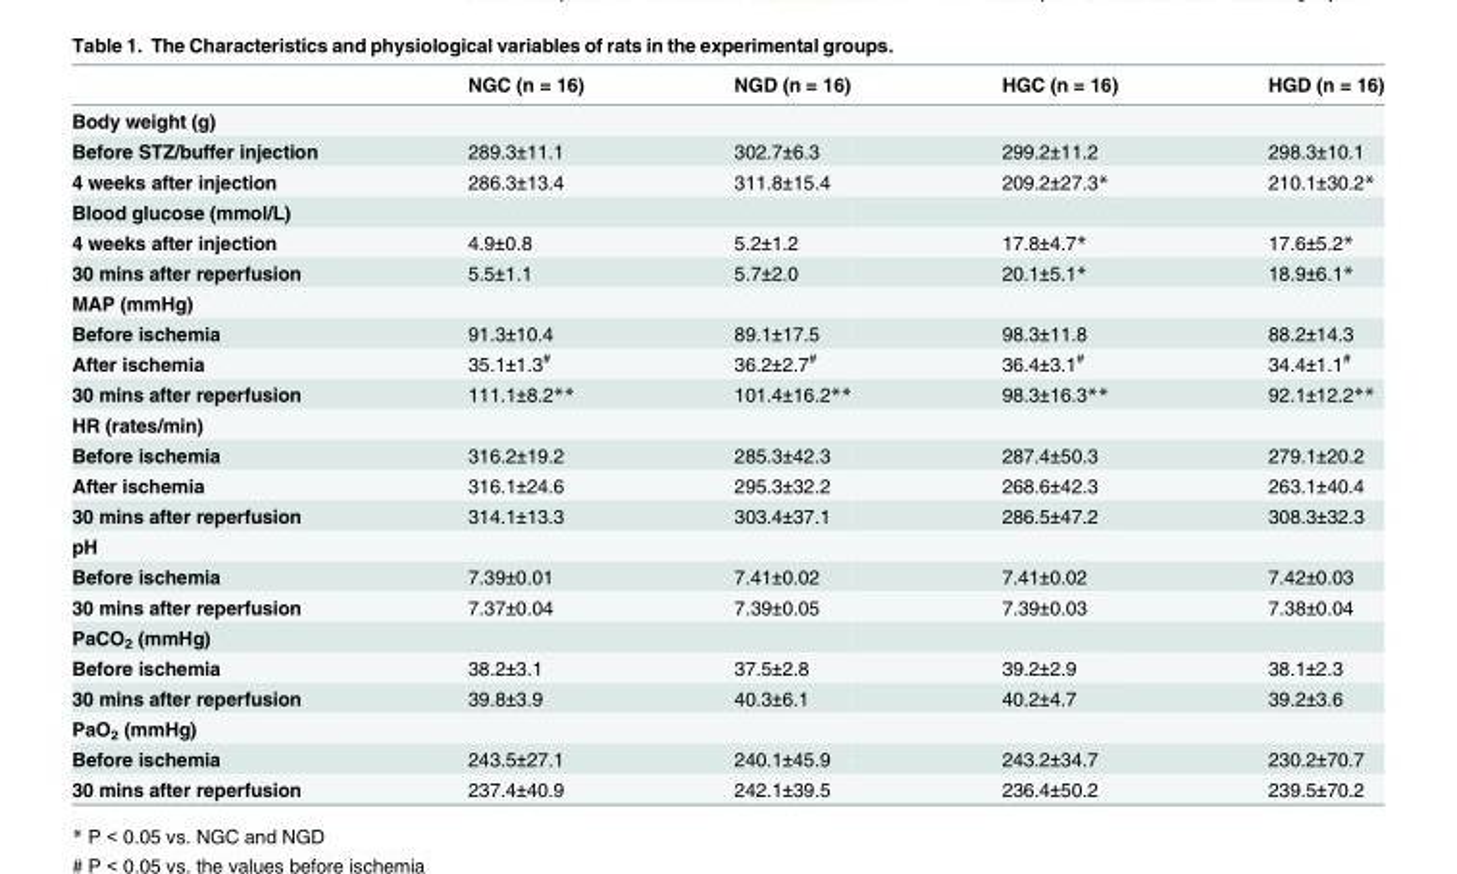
<table><thead><tr><td></td><td>NGC (n = 16)</td><td>NGD (n = 16)</td><td>HGC (n = 16)</td><td>HGD (n = 16)</td></tr></thead><tbody><tr><td colspan="5">Body weight (g)</td></tr><tr><td>Before STZ/buffer injection</td><td>289.3±11.1</td><td>302.7±6.3</td><td>299.2±11.2</td><td>298.3±10.1</td></tr><tr><td>4 weeks after injection</td><td>286.3±13.4</td><td>311.8±15.4</td><td>209.2±27.3*</td><td>210.1±30.2*</td></tr><tr><td colspan="5">Blood glucose (mmol/L)</td></tr><tr><td>4 weeks after injection</td><td>4.9±0.8</td><td>5.2±1.2</td><td>17.8±4.7*</td><td>17.6±5.2*</td></tr><tr><td>30 mins after reperfusion</td><td>5.5±1.1</td><td>5.7±2.0</td><td>20.1±5.1*</td><td>18.9±6.1*</td></tr><tr><td colspan="5">MAP (mmHg)</td></tr><tr><td>Before ischemia</td><td>91.3±10.4</td><td>89.1±17.5</td><td>98.3±11.8</td><td>88.2±14.3</td></tr><tr><td>After ischemia</td><td>35.1±1.3<sup>#</sup></td><td>36.2±2.7<sup>#</sup></td><td>36.4±3.1<sup>#</sup></td><td>34.4±1.1<sup>#</sup></td></tr><tr><td>30 mins after reperfusion</td><td>111.1±8.2**</td><td>101.4±16.2**</td><td>98.3±16.3**</td><td>92.1±12.2**</td></tr><tr><td colspan="5">HR (rates/min)</td></tr><tr><td>Before ischemia</td><td>316.2±19.2</td><td>285.3±42.3</td><td>287.4±50.3</td><td>279.1±20.2</td></tr><tr><td>After ischemia</td><td>316.1±24.6</td><td>295.3±32.2</td><td>268.6±42.3</td><td>263.1±40.4</td></tr><tr><td>30 mins after reperfusion</td><td>314.1±13.3</td><td>303.4±37.1</td><td>286.5±47.2</td><td>308.3±32.3</td></tr><tr><td colspan="5">pH</td></tr><tr><td>Before ischemia</td><td>7.39±0.01</td><td>7.41±0.02</td><td>7.41±0.02</td><td>7.42±0.03</td></tr><tr><td>30 mins after reperfusion</td><td>7.37±0.04</td><td>7.39±0.05</td><td>7.39±0.03</td><td>7.38±0.04</td></tr><tr><td colspan="5">PaCO<sub>2</sub> (mmHg)</td></tr><tr><td>Before ischemia</td><td>38.2±3.1</td><td>37.5±2.8</td><td>39.2±2.9</td><td>38.1±2.3</td></tr><tr><td>30 mins after reperfusion</td><td>39.8±3.9</td><td>40.3±6.1</td><td>40.2±4.7</td><td>39.2±3.6</td></tr><tr><td colspan="5">PaO<sub>2</sub> (mmHg)</td></tr><tr><td>Before ischemia</td><td>243.5±27.1</td><td>240.1±45.9</td><td>243.2±34.7</td><td>230.2±70.7</td></tr><tr><td>30 mins after reperfusion</td><td>237.4±40.9</td><td>242.1±39.5</td><td>236.4±50.2</td><td>239.5±70.2</td></tr></tbody></table>